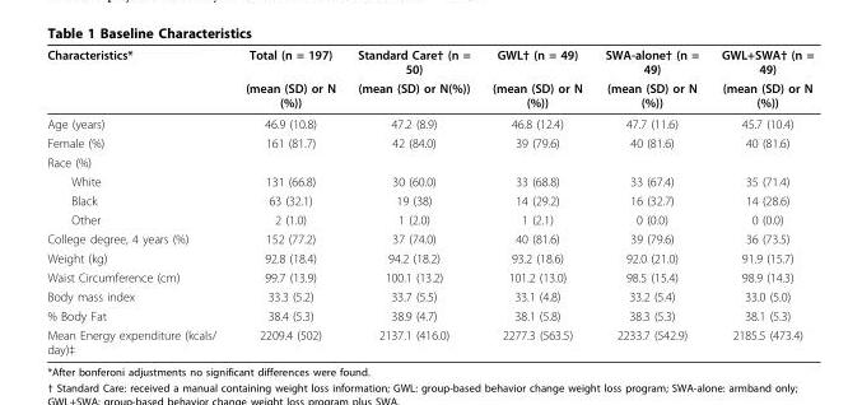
<table><thead><tr><td rowspan="2">Characteristics*</td><td rowspan="2">Total (n = 197) (mean (SD) or N (%))</td><td rowspan="2">Standard Care† (n = 50) (mean (SD) or N(%))</td><td rowspan="2">GWL† (n = 49) (mean (SD) or N (%))</td><td rowspan="2">SWA-alone† (n = 49) (mean (SD) or N (%))</td><td rowspan="2">GWL+SWA† (n = 49) (mean (SD) or N (%))</td></tr><tr></tr></thead><tbody><tr><td>Age (years)</td><td>46.9 (10.8)</td><td>47.2 (8.9)</td><td>46.8 (12.4)</td><td>47.7 (11.6)</td><td>45.7 (10.4)</td></tr><tr><td>Female (%)</td><td>161 (81.7)</td><td>42 (84.0)</td><td>39 (79.6)</td><td>40 (81.6)</td><td>40 (81.6)</td></tr><tr><td colspan="6">Race (%)</td></tr><tr><td>White</td><td>131 (66.8)</td><td>30 (60.0)</td><td>33 (68.8)</td><td>33 (67.4)</td><td>35 (71.4)</td></tr><tr><td>Black</td><td>63 (32.1)</td><td>19 (38)</td><td>14 (29.2)</td><td>16 (32.7)</td><td>14 (28.6)</td></tr><tr><td>Other</td><td>2 (1.0)</td><td>1 (2.0)</td><td>1 (2.1)</td><td>0 (0.0)</td><td>0 (0.0)</td></tr><tr><td>College degree, 4 years (%)</td><td>152 (77.2)</td><td>37 (74.0)</td><td>40 (81.6)</td><td>39 (79.6)</td><td>36 (73.5)</td></tr><tr><td>Weight (kg)</td><td>92.8 (18.4)</td><td>94.2 (18.2)</td><td>93.2 (18.6)</td><td>92.0 (21.0)</td><td>91.9 (15.7)</td></tr><tr><td>Waist Circumference (cm)</td><td>99.7 (13.9)</td><td>100.1 (13.2)</td><td>101.2 (13.0)</td><td>98.5 (15.4)</td><td>98.9 (14.3)</td></tr><tr><td>Body mass index</td><td>33.3 (5.2)</td><td>33.7 (5.5)</td><td>33.1 (4.8)</td><td>33.2 (5.4)</td><td>33.0 (5.0)</td></tr><tr><td>% Body Fat</td><td>38.4 (5.3)</td><td>38.9 (4.7)</td><td>38.1 (5.8)</td><td>38.3 (5.3)</td><td>38.1 (5.3)</td></tr><tr><td>Mean Energy expenditure (kcals/ day)‡</td><td>2209.4 (502)</td><td>2137.1 (416.0)</td><td>2277.3 (563.5)</td><td>2233.7 (542.9)</td><td>2185.5 (473.4)</td></tr></tbody></table>